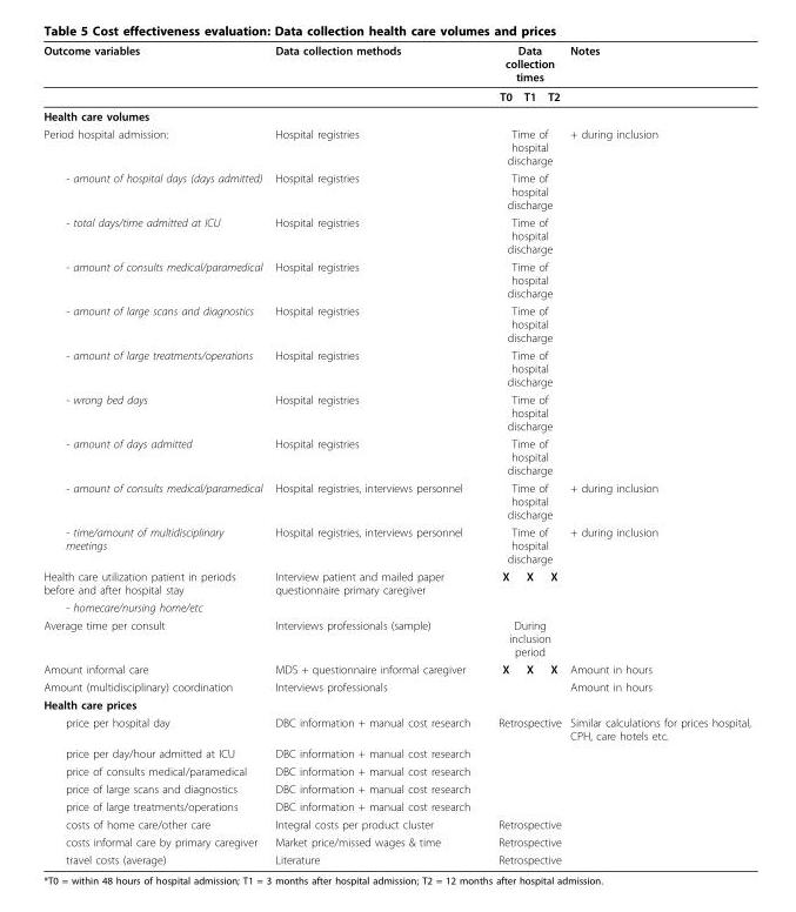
<table><thead><tr><td rowspan="2">Outcome variables</td><td rowspan="2">Data collection methods</td><td colspan="3">Data collection times</td><td rowspan="2">Notes</td></tr><tr><td>T0</td><td>T1</td><td>T2</td></tr></thead><tbody><tr><td colspan="6">Health care volumes</td></tr><tr><td>Period hospital admission:</td><td>Hospital registries</td><td colspan="3">Time of hospital discharge</td><td>+ during inclusion</td></tr><tr><td>- amount of hospital days (days admitted)</td><td>Hospital registries</td><td colspan="3">Time of hospital discharge</td><td></td></tr><tr><td>- total days/time admitted at ICU</td><td>Hospital registries</td><td colspan="3">Time of hospital discharge</td><td></td></tr><tr><td>- amount of consults medical/paramedical</td><td>Hospital registries</td><td colspan="3">Time of hospital discharge</td><td></td></tr><tr><td>- amount of large scans and diagnostics</td><td>Hospital registries</td><td colspan="3">Time of hospital discharge</td><td></td></tr><tr><td>- amount of large treatments/operations</td><td>Hospital registries</td><td colspan="3">Time of hospital discharge</td><td></td></tr><tr><td>- wrong bed days</td><td>Hospital registries</td><td colspan="3">Time of hospital discharge</td><td></td></tr><tr><td>- amount of days admitted</td><td>Hospital registries</td><td colspan="3">Time of hospital discharge</td><td></td></tr><tr><td>- amount of consults medical/paramedical</td><td>Hospital registries, interviews personnel</td><td colspan="3">Time of hospital discharge</td><td>+ during inclusion</td></tr><tr><td>- time/amount of multidisciplinary meetings</td><td>Hospital registries, interviews personnel</td><td colspan="3">Time of hospital discharge</td><td>+ during inclusion</td></tr><tr><td>Health care utilization patient in periods before and after hospital stay</td><td>Interview patient and mailed paper questionnaire primary caregiver</td><td>X</td><td>X</td><td>X</td><td></td></tr><tr><td colspan="6">- homecare/nursing home/etc</td></tr><tr><td>Average time per consult</td><td>Interviews professionals (sample)</td><td colspan="3">During inclusion period</td><td></td></tr><tr><td>Amount informal care</td><td>MDS + questionnaire informal caregiver</td><td>X</td><td>X</td><td>X</td><td>Amount in hours</td></tr><tr><td>Amount (multidisciplinary) coordination</td><td>Interviews professionals</td><td></td><td></td><td></td><td>Amount in hours</td></tr><tr><td colspan="6">Health care prices</td></tr><tr><td>price per hospital day</td><td>DBC information + manual cost research</td><td colspan="3">Retrospective</td><td>Similar calculations for prices hospital, CPH, care hotels etc.</td></tr><tr><td>price per day/hour admitted at ICU</td><td>DBC information + manual cost research</td><td></td><td></td><td></td><td></td></tr><tr><td>price of consults medical/paramedical</td><td>DBC information + manual cost research</td><td></td><td></td><td></td><td></td></tr><tr><td>price of large scans and diagnostics</td><td>DBC information + manual cost research</td><td></td><td></td><td></td><td></td></tr><tr><td>price of large treatments/operations</td><td>DBC information + manual cost research</td><td></td><td></td><td></td><td></td></tr><tr><td>costs of home care/other care</td><td>Integral costs per product cluster</td><td colspan="3">Retrospective</td><td></td></tr><tr><td>costs informal care by primary caregiver</td><td>Market price/missed wages &amp; time</td><td colspan="3">Retrospective</td><td></td></tr><tr><td>travel costs (average)</td><td>Literature</td><td colspan="3">Retrospective</td><td></td></tr></tbody></table>